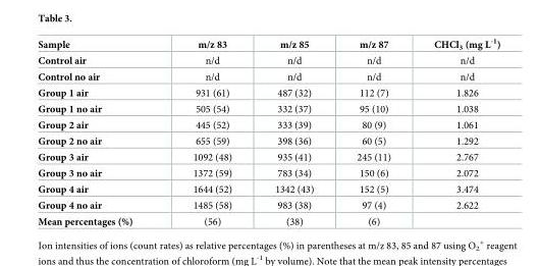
<table><thead><tr><td>Sample</td><td>m/z 83</td><td>m/z 85</td><td>m/z 87</td><td>CHCl<sub>3</sub> (mg L<sup>-1</sup>)</td></tr></thead><tbody><tr><td>Control air</td><td>n/d</td><td>n/d</td><td>n/d</td><td>n/d</td></tr><tr><td>Control no air</td><td>n/d</td><td>n/d</td><td>n/d</td><td>n/d</td></tr><tr><td>Group 1 air</td><td>931 (61)</td><td>487 (32)</td><td>112 (7)</td><td>1.826</td></tr><tr><td>Group 1 no air</td><td>505 (54)</td><td>332 (37)</td><td>95 (10)</td><td>1.038</td></tr><tr><td>Group 2 air</td><td>445 (52)</td><td>333 (39)</td><td>80 (9)</td><td>1.061</td></tr><tr><td>Group 2 no air</td><td>655 (59)</td><td>398 (36)</td><td>60 (5)</td><td>1.292</td></tr><tr><td>Group 3 air</td><td>1092 (48)</td><td>935 (41)</td><td>245 (11)</td><td>2.767</td></tr><tr><td>Group 3 no air</td><td>1372 (59)</td><td>783 (34)</td><td>150 (6)</td><td>2.072</td></tr><tr><td>Group 4 air</td><td>1644 (52)</td><td>1342 (43)</td><td>152 (5)</td><td>3.474</td></tr><tr><td>Group 4 no air</td><td>1485 (58)</td><td>983 (38)</td><td>97 (4)</td><td>2.622</td></tr><tr><td>Mean percentages (%)</td><td>(56)</td><td>(38)</td><td>(6)</td><td></td></tr></tbody></table>